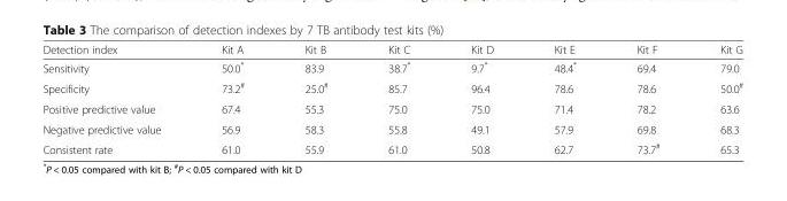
<table><thead><tr><td>Detection index</td><td>Kit A</td><td>Kit B</td><td>Kit C</td><td>Kit D</td><td>Kit E</td><td>Kit F</td><td>Kit G</td></tr></thead><tbody><tr><td>Sensitivity</td><td>50.0*</td><td>83.9</td><td>38.7*</td><td>9.7*</td><td>48.4*</td><td>69.4</td><td>79.0</td></tr><tr><td>Specificity</td><td>73.2<sup>#</sup></td><td>25.0<sup>#</sup></td><td>85.7</td><td>96.4</td><td>78.6</td><td>78.6</td><td>50.0<sup>#</sup></td></tr><tr><td>Positive predictive value</td><td>67.4</td><td>55.3</td><td>75.0</td><td>75.0</td><td>71.4</td><td>78.2</td><td>63.6</td></tr><tr><td>Negative predictive value</td><td>56.9</td><td>58.3</td><td>55.8</td><td>49.1</td><td>57.9</td><td>69.8</td><td>68.3</td></tr><tr><td>Consistent rate</td><td>61.0</td><td>55.9</td><td>61.0</td><td>50.8</td><td>62.7</td><td>73.7<sup>#</sup></td><td>65.3</td></tr></tbody></table>